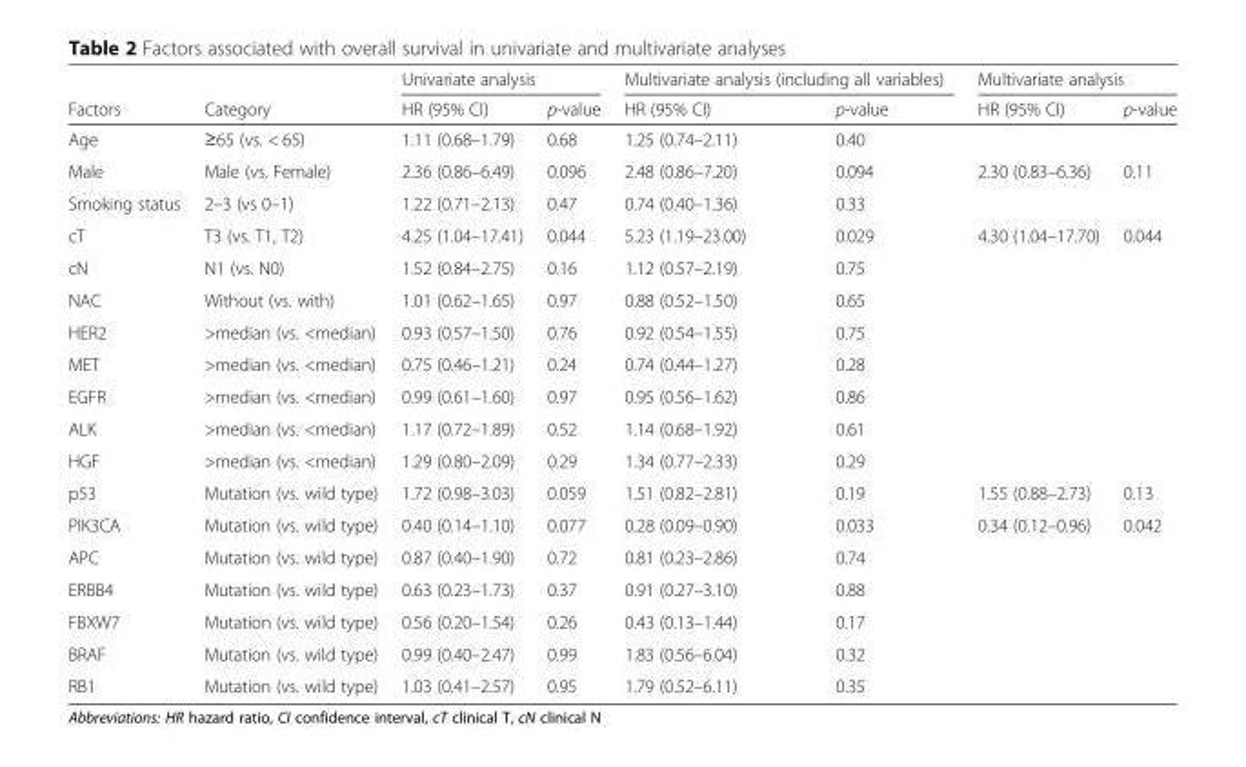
<table><thead><tr><td rowspan="2">Factors</td><td rowspan="2">Category</td><td colspan="2">Univariate analysis</td><td colspan="2">Multivariate analysis (including all variables)</td><td colspan="2">Multivariate analysis</td></tr><tr><td>HR (95% CI)</td><td>p-value</td><td>HR (95% CI)</td><td>p-value</td><td>HR (95% CI)</td><td>p-value</td></tr></thead><tbody><tr><td>Age</td><td>≥65 (vs. &lt; 65)</td><td>1.11 (0.68–1.79)</td><td>0.68</td><td>1.25 (0.74–2.11)</td><td>0.40</td><td></td><td></td></tr><tr><td>Male</td><td>Male (vs. Female)</td><td>2.36 (0.86–6.49)</td><td>0.096</td><td>2.48 (0.86–7.20)</td><td>0.094</td><td>2.30 (0.83–6.36)</td><td>0.11</td></tr><tr><td>Smoking status</td><td>2–3 (vs 0–1)</td><td>1.22 (0.71–2.13)</td><td>0.47</td><td>0.74 (0.40–1.36)</td><td>0.33</td><td></td><td></td></tr><tr><td>cT</td><td>T3 (vs. T1, T2)</td><td>4.25 (1.04–17.41)</td><td>0.044</td><td>5.23 (1.19–23.00)</td><td>0.029</td><td>4.30 (1.04–17.70)</td><td>0.044</td></tr><tr><td>cN</td><td>N1 (vs. N0)</td><td>1.52 (0.84–2.75)</td><td>0.16</td><td>1.12 (0.57–2.19)</td><td>0.75</td><td></td><td></td></tr><tr><td>NAC</td><td>Without (vs. with)</td><td>1.01 (0.62–1.65)</td><td>0.97</td><td>0.88 (0.52–1.50)</td><td>0.65</td><td></td><td></td></tr><tr><td>HER2</td><td>&gt;median (vs. &lt;median)</td><td>0.93 (0.57–1.50)</td><td>0.76</td><td>0.92 (0.54–1.55)</td><td>0.75</td><td></td><td></td></tr><tr><td>MET</td><td>&gt;median (vs. &lt;median)</td><td>0.75 (0.46–1.21)</td><td>0.24</td><td>0.74 (0.44–1.27)</td><td>0.28</td><td></td><td></td></tr><tr><td>EGFR</td><td>&gt;median (vs. &lt;median)</td><td>0.99 (0.61–1.60)</td><td>0.97</td><td>0.95 (0.56–1.62)</td><td>0.86</td><td></td><td></td></tr><tr><td>ALK</td><td>&gt;median (vs. &lt;median)</td><td>1.17 (0.72–1.89)</td><td>0.52</td><td>1.14 (0.68–1.92)</td><td>0.61</td><td></td><td></td></tr><tr><td>HGF</td><td>&gt;median (vs. &lt;median)</td><td>1.29 (0.80–2.09)</td><td>0.29</td><td>1.34 (0.77–2.33)</td><td>0.29</td><td></td><td></td></tr><tr><td>p53</td><td>Mutation (vs. wild type)</td><td>1.72 (0.98–3.03)</td><td>0.059</td><td>1.51 (0.82–2.81)</td><td>0.19</td><td>1.55 (0.88–2.73)</td><td>0.13</td></tr><tr><td>PIK3CA</td><td>Mutation (vs. wild type)</td><td>0.40 (0.14–1.10)</td><td>0.077</td><td>0.28 (0.09–0.90)</td><td>0.033</td><td>0.34 (0.12–0.96)</td><td>0.042</td></tr><tr><td>APC</td><td>Mutation (vs. wild type)</td><td>0.87 (0.40–1.90)</td><td>0.72</td><td>0.81 (0.23–2.86)</td><td>0.74</td><td></td><td></td></tr><tr><td>ERBB4</td><td>Mutation (vs. wild type)</td><td>0.63 (0.23–1.73)</td><td>0.37</td><td>0.91 (0.27–3.10)</td><td>0.88</td><td></td><td></td></tr><tr><td>FBXW7</td><td>Mutation (vs. wild type)</td><td>0.56 (0.20–1.54)</td><td>0.26</td><td>0.43 (0.13–1.44)</td><td>0.17</td><td></td><td></td></tr><tr><td>BRAF</td><td>Mutation (vs. wild type)</td><td>0.99 (0.40–2.47)</td><td>0.99</td><td>1.83 (0.56–6.04)</td><td>0.32</td><td></td><td></td></tr><tr><td>RB1</td><td>Mutation (vs. wild type)</td><td>1.03 (0.41–2.57)</td><td>0.95</td><td>1.79 (0.52–6.11)</td><td>0.35</td><td></td><td></td></tr></tbody></table>